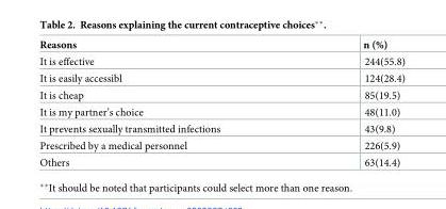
<table><thead><tr><td>Reasons</td><td>n (%)</td></tr></thead><tbody><tr><td>It is effective</td><td>244(55.8)</td></tr><tr><td>It is easily accessibl</td><td>124(28.4)</td></tr><tr><td>It is cheap</td><td>85(19.5)</td></tr><tr><td>It is my partner’s choice</td><td>48(11.0)</td></tr><tr><td>It prevents sexually transmitted infections</td><td>43(9.8)</td></tr><tr><td>Prescribed by a medical personnel</td><td>226(5.9)</td></tr><tr><td>Others</td><td>63(14.4)</td></tr></tbody></table>